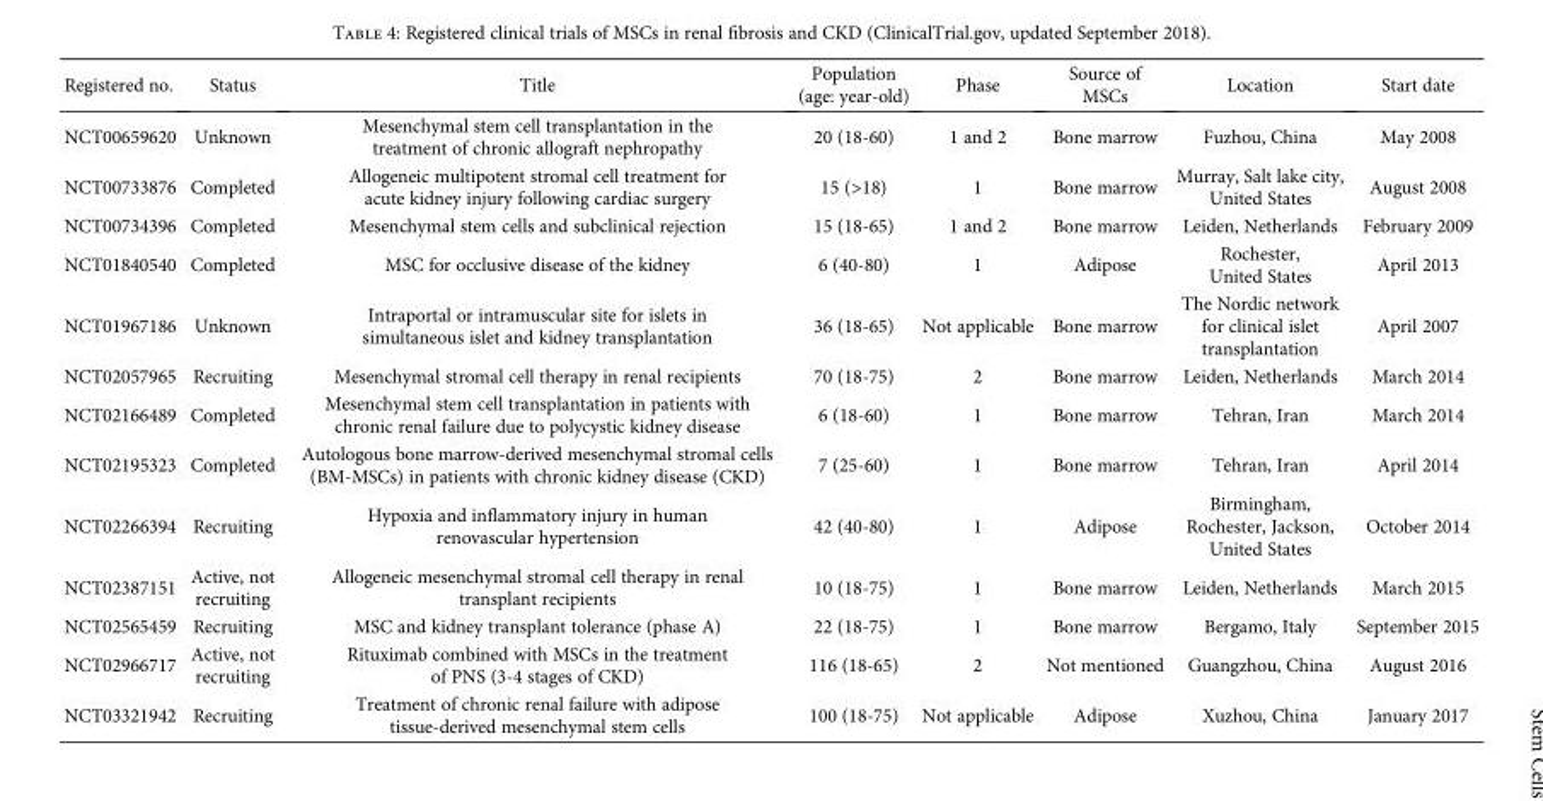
<table><thead><tr><td>Registered no.</td><td>Status</td><td>Title</td><td>Population (age: year-old)</td><td>Phase</td><td>Source of MSCs</td><td>Location</td><td>Start date</td></tr></thead><tbody><tr><td>NCT00659620</td><td>Unknown</td><td>Mesenchymal stem cell transplantation in the treatment of chronic allograft nephropathy</td><td>20 (18-60)</td><td>1 and 2</td><td>Bone marrow</td><td>Fuzhou, China</td><td>May 2008</td></tr><tr><td>NCT00733876</td><td>Completed</td><td>Allogeneic multipotent stromal cell treatment for acute kidney injury following cardiac surgery</td><td>15 (&gt;18)</td><td>1</td><td>Bone marrow</td><td>Murray, Salt lake city, United States</td><td>August 2008</td></tr><tr><td>NCT00734396</td><td>Completed</td><td>Mesenchymal stem cells and subclinical rejection</td><td>15 (18-65)</td><td>1 and 2</td><td>Bone marrow</td><td>Leiden, Netherlands</td><td>February 2009</td></tr><tr><td>NCT01840540</td><td>Completed</td><td>MSC for occlusive disease of the kidney</td><td>6 (40-80)</td><td>1</td><td>Adipose</td><td>Rochester, United States</td><td>April 2013</td></tr><tr><td>NCT01967186</td><td>Unknown</td><td>Intraportal or intramuscular site for islets in simultaneous islet and kidney transplantation</td><td>36 (18-65)</td><td>Not applicable</td><td>Bone marrow</td><td>The Nordic network for clinical islet transplantation</td><td>April 2007</td></tr><tr><td>NCT02057965</td><td>Recruiting</td><td>Mesenchymal stromal cell therapy in renal recipients</td><td>70 (18-75)</td><td>2</td><td>Bone marrow</td><td>Leiden, Netherlands</td><td>March 2014</td></tr><tr><td>NCT02166489</td><td>Completed</td><td>Mesenchymal stem cell transplantation in patients with chronic renal failure due to polycystic kidney disease</td><td>6 (18-60)</td><td>1</td><td>Bone marrow</td><td>Tehran, Iran</td><td>March 2014</td></tr><tr><td>NCT02195323</td><td>Completed</td><td>Autologous bone marrow-derived mesenchymal stromal cells (BM-MSCs) in patients with chronic kidney disease (CKD)</td><td>7 (25-60)</td><td>1</td><td>Bone marrow</td><td>Tehran, Iran</td><td>April 2014</td></tr><tr><td>NCT02266394</td><td>Recruiting</td><td>Hypoxia and inflammatory injury in human renovascular hypertension</td><td>42 (40-80)</td><td>1</td><td>Adipose</td><td>Birmingham, Rochester, Jackson, United States</td><td>October 2014</td></tr><tr><td>NCT02387151</td><td>Active, not recruiting</td><td>Allogeneic mesenchymal stromal cell therapy in renal transplant recipients</td><td>10 (18-75)</td><td>1</td><td>Bone marrow</td><td>Leiden, Netherlands</td><td>March 2015</td></tr><tr><td>NCT02565459</td><td>Recruiting</td><td>MSC and kidney transplant tolerance (phase A)</td><td>22 (18-75)</td><td>1</td><td>Bone marrow</td><td>Bergamo, Italy</td><td>September 2015</td></tr><tr><td>NCT02966717</td><td>Active, not recruiting</td><td>Rituximab combined with MSCs in the treatment of PNS (3-4 stages of CKD)</td><td>116 (18-65)</td><td>2</td><td>Not mentioned</td><td>Guangzhou, China</td><td>August 2016</td></tr><tr><td>NCT03321942</td><td>Recruiting</td><td>Treatment of chronic renal failure with adipose tissue-derived mesenchymal stem cells</td><td>100 (18-75)</td><td>Not applicable</td><td>Adipose</td><td>Xuzhou, China</td><td>January 2017</td></tr></tbody></table>